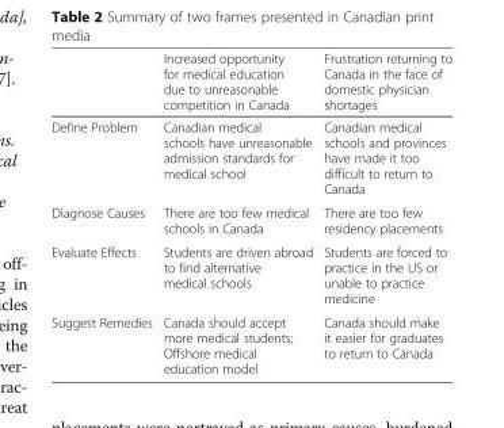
<table><thead><tr><td></td><td>Increased opportunity for medical education due to unreasonable competition in Canada</td><td>Frustration returning to Canada in the face of domestic physician shortages</td></tr></thead><tbody><tr><td>Define Problem</td><td>Canadian medical schools have unreasonable admission standards for medical school</td><td>Canadian medical schools and provinces have made it too difficult to return to Canada</td></tr><tr><td>Diagnose Causes</td><td>There are too few medical schools in Canada</td><td>There are too few residency placements</td></tr><tr><td>Evaluate Effects</td><td>Students are driven abroad to find alternative medical schools</td><td>Students are forced to practice in the US or unable to practice medicine</td></tr><tr><td>Suggest Remedies</td><td>Canada should accept more medical students; Offshore medical education model</td><td>Canada should make it easier for graduates to return to Canada</td></tr></tbody></table>